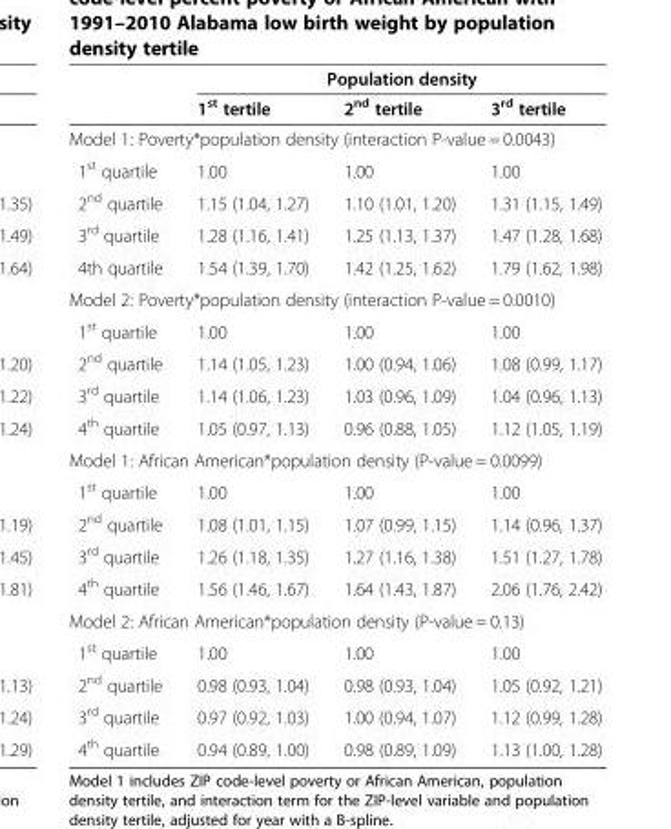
<table><thead><tr><td rowspan="2"></td><td colspan="3">Population density</td></tr><tr><td>1<sup>st</sup> tertile</td><td>2<sup>nd</sup> tertile</td><td>3<sup>rd</sup> tertile</td></tr></thead><tbody><tr><td colspan="4">Model 1: Poverty*population density (interaction P-value = 0.0043)</td></tr><tr><td>1<sup>st</sup> quartile</td><td>1.00</td><td>1.00</td><td>1.00</td></tr><tr><td>2<sup>nd</sup> quartile</td><td>1.15 (1.04, 1.27)</td><td>1.10 (1.01, 1.20)</td><td>1.31 (1.15, 1.49)</td></tr><tr><td>3<sup>rd</sup> quartile</td><td>1.28 (1.16, 1.41)</td><td>1.25 (1.13, 1.37)</td><td>1.47 (1.28, 1.68)</td></tr><tr><td>4th quartile</td><td>1.54 (1.39, 1.70)</td><td>1.42 (1.25, 1.62)</td><td>1.79 (1.62, 1.98)</td></tr><tr><td colspan="4">Model 2: Poverty*population density (interaction P-value = 0.0010)</td></tr><tr><td>1<sup>st</sup> quartile</td><td>1.00</td><td>1.00</td><td>1.00</td></tr><tr><td>2<sup>nd</sup> quartile</td><td>1.14 (1.05, 1.23)</td><td>1.00 (0.94, 1.06)</td><td>1.08 (0.99, 1.17)</td></tr><tr><td>3<sup>rd</sup> quartile</td><td>1.14 (1.06, 1.23)</td><td>1.03 (0.96, 1.09)</td><td>1.04 (0.96, 1.13)</td></tr><tr><td>4<sup>th</sup> quartile</td><td>1.05 (0.97, 1.13)</td><td>0.96 (0.88, 1.05)</td><td>1.12 (1.05, 1.19)</td></tr><tr><td colspan="4">Model 1: African American*population density (P-value = 0.0099)</td></tr><tr><td>1<sup>st</sup> quartile</td><td>1.00</td><td>1.00</td><td>1.00</td></tr><tr><td>2<sup>nd</sup> quartile</td><td>1.08 (1.01, 1.15)</td><td>1.07 (0.99, 1.15)</td><td>1.14 (0.96, 1.37)</td></tr><tr><td>3<sup>rd</sup> quartile</td><td>1.26 (1.18, 1.35)</td><td>1.27 (1.16, 1.38)</td><td>1.51 (1.27, 1.78)</td></tr><tr><td>4<sup>th</sup> quartile</td><td>1.56 (1.46, 1.67)</td><td>1.64 (1.43, 1.87)</td><td>2.06 (1.76, 2.42)</td></tr><tr><td colspan="4">Model 2: African American*population density (P-value = 0.13)</td></tr><tr><td>1<sup>st</sup> quartile</td><td>1.00</td><td>1.00</td><td>1.00</td></tr><tr><td>2<sup>nd</sup> quartile</td><td>0.98 (0.93, 1.04)</td><td>0.98 (0.93, 1.04)</td><td>1.05 (0.92, 1.21)</td></tr><tr><td>3<sup>rd</sup> quartile</td><td>0.97 (0.92, 1.03)</td><td>1.00 (0.94, 1.07)</td><td>1.12 (0.99, 1.28)</td></tr><tr><td>4<sup>th</sup> quartile</td><td>0.94 (0.89, 1.00)</td><td>0.98 (0.89, 1.09)</td><td>1.13 (1.00, 1.28)</td></tr></tbody></table>